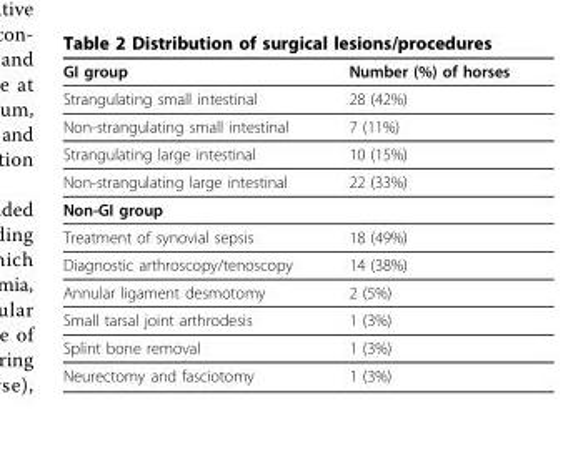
<table><thead><tr><td>GI group</td><td>Number (%) of horses</td></tr></thead><tbody><tr><td>Strangulating small intestinal</td><td>28 (42%)</td></tr><tr><td>Non-strangulating small intestinal</td><td>7 (11%)</td></tr><tr><td>Strangulating large intestinal</td><td>10 (15%)</td></tr><tr><td>Non-strangulating large intestinal</td><td>22 (33%)</td></tr><tr><td colspan="2">Non-GI group</td></tr><tr><td>Treatment of synovial sepsis</td><td>18 (49%)</td></tr><tr><td>Diagnostic arthroscopy/tenoscopy</td><td>14 (38%)</td></tr><tr><td>Annular ligament desmotomy</td><td>2 (5%)</td></tr><tr><td>Small tarsal joint arthrodesis</td><td>1 (3%)</td></tr><tr><td>Splint bone removal</td><td>1 (3%)</td></tr><tr><td>Neurectomy and fasciotomy</td><td>1 (3%)</td></tr></tbody></table>